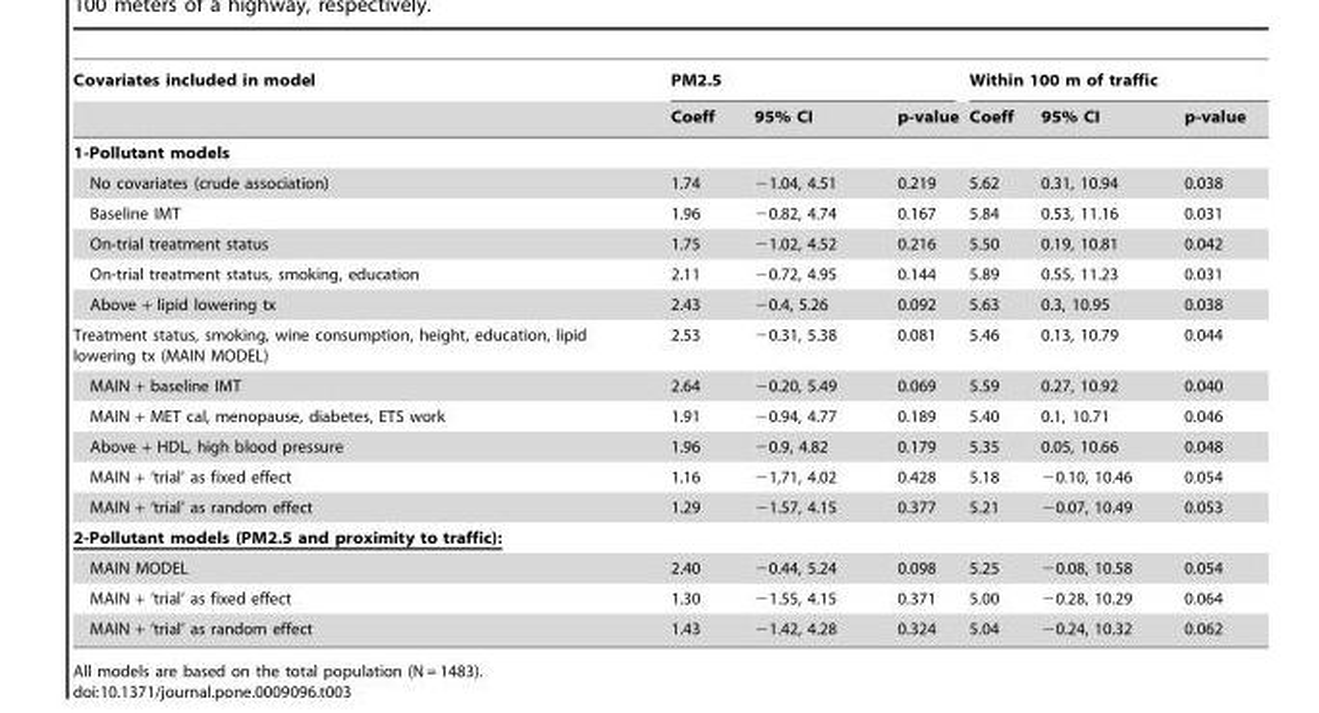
<table><thead><tr><td rowspan="2">Covariates included in model</td><td colspan="3">PM2.5</td><td colspan="3">Within 100 m of traffic</td></tr><tr><td>Coeff</td><td>95% CI</td><td>p-value</td><td>Coeff</td><td>95% CI</td><td>p-value</td></tr></thead><tbody><tr><td colspan="7">1-Pollutant models</td></tr><tr><td>No covariates (crude association)</td><td>1.74</td><td>−1.04, 4.51</td><td>0.219</td><td>5.62</td><td>0.31, 10.94</td><td>0.038</td></tr><tr><td>Baseline IMT</td><td>1.96</td><td>−0.82, 4.74</td><td>0.167</td><td>5.84</td><td>0.53, 11.16</td><td>0.031</td></tr><tr><td>On-trial treatment status</td><td>1.75</td><td>−1.02, 4.52</td><td>0.216</td><td>5.50</td><td>0.19, 10.81</td><td>0.042</td></tr><tr><td>On-trial treatment status, smoking, education</td><td>2.11</td><td>−0.72, 4.95</td><td>0.144</td><td>5.89</td><td>0.55, 11.23</td><td>0.031</td></tr><tr><td>Above + lipid lowering tx</td><td>2.43</td><td>−0.4, 5.26</td><td>0.092</td><td>5.63</td><td>0.3, 10.95</td><td>0.038</td></tr><tr><td>Treatment status, smoking, wine consumption, height, education, lipid lowering tx (MAIN MODEL)</td><td>2.53</td><td>−0.31, 5.38</td><td>0.081</td><td>5.46</td><td>0.13, 10.79</td><td>0.044</td></tr><tr><td>MAIN + baseline IMT</td><td>2.64</td><td>−0.20, 5.49</td><td>0.069</td><td>5.59</td><td>0.27, 10.92</td><td>0.040</td></tr><tr><td>MAIN + MET cal, menopause, diabetes, ETS work</td><td>1.91</td><td>−0.94, 4.77</td><td>0.189</td><td>5.40</td><td>0.1, 10.71</td><td>0.046</td></tr><tr><td>Above + HDL, high blood pressure</td><td>1.96</td><td>−0.9, 4.82</td><td>0.179</td><td>5.35</td><td>0.05, 10.66</td><td>0.048</td></tr><tr><td>MAIN + ‘trial’ as fixed effect</td><td>1.16</td><td>−1,71, 4.02</td><td>0.428</td><td>5.18</td><td>−0.10, 10.46</td><td>0.054</td></tr><tr><td>MAIN + ‘trial’ as random effect</td><td>1.29</td><td>−1.57, 4.15</td><td>0.377</td><td>5.21</td><td>−0.07, 10.49</td><td>0.053</td></tr><tr><td colspan="7">2-Pollutant models (PM2.5 and proximity to traffic):</td></tr><tr><td>MAIN MODEL</td><td>2.40</td><td>−0.44, 5.24</td><td>0.098</td><td>5.25</td><td>−0.08, 10.58</td><td>0.054</td></tr><tr><td>MAIN + ‘trial’ as fixed effect</td><td>1.30</td><td>−1.55, 4.15</td><td>0.371</td><td>5.00</td><td>−0.28, 10.29</td><td>0.064</td></tr><tr><td>MAIN + ‘trial’ as random effect</td><td>1.43</td><td>−1.42, 4.28</td><td>0.324</td><td>5.04</td><td>−0.24, 10.32</td><td>0.062</td></tr></tbody></table>